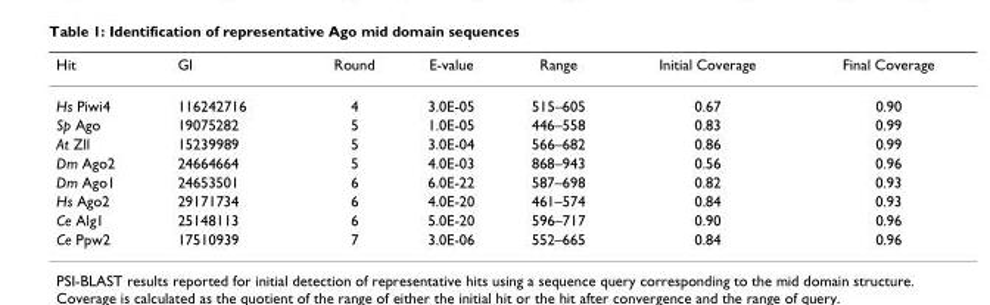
<table><thead><tr><td>Hit</td><td>GI</td><td>Round</td><td>E-value</td><td>Range</td><td>Initial Coverage</td><td>Final Coverage</td></tr></thead><tbody><tr><td>Hs Piwi4</td><td>116242716</td><td>4</td><td>3.0E-05</td><td>515–605</td><td>0.67</td><td>0.90</td></tr><tr><td>Sp Ago</td><td>19075282</td><td>5</td><td>1.0E-05</td><td>446–558</td><td>0.83</td><td>0.99</td></tr><tr><td>At Zll</td><td>15239989</td><td>5</td><td>3.0E-04</td><td>566–682</td><td>0.86</td><td>0.99</td></tr><tr><td>Dm Ago2</td><td>24664664</td><td>5</td><td>4.0E-03</td><td>868–943</td><td>0.56</td><td>0.96</td></tr><tr><td>Dm Ago1</td><td>24653501</td><td>6</td><td>6.0E-22</td><td>587–698</td><td>0.82</td><td>0.93</td></tr><tr><td>Hs Ago2</td><td>29171734</td><td>6</td><td>4.0E-20</td><td>461–574</td><td>0.84</td><td>0.93</td></tr><tr><td>Ce Alg1</td><td>25148113</td><td>6</td><td>5.0E-20</td><td>596–717</td><td>0.90</td><td>0.96</td></tr><tr><td>Ce Ppw2</td><td>17510939</td><td>7</td><td>3.0E-06</td><td>552–665</td><td>0.84</td><td>0.96</td></tr></tbody></table>